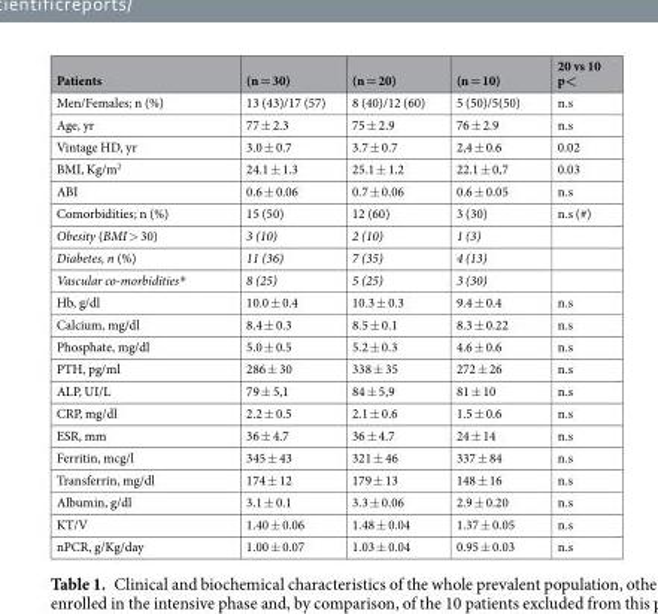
<table><thead><tr><td>Patients</td><td>(n = 30)</td><td>(n = 20)</td><td>(n = 10)</td><td>20 vs 10 p&lt;</td></tr></thead><tbody><tr><td>Men/Females; n (%)</td><td>13 (43)/17 (57)</td><td>8 (40)/12 (60)</td><td>5 (50)/5(50)</td><td>n.s</td></tr><tr><td>Age, yr</td><td>77 ± 2.3</td><td>75 ± 2.9</td><td>76 ± 2.9</td><td>n.s</td></tr><tr><td>Vintage HD, yr</td><td>3.0 ± 0.7</td><td>3.7 ± 0.7</td><td>2,4 ± 0.6</td><td>0.02</td></tr><tr><td>BMI, Kg/m<sup>2</sup></td><td>24.1 ± 1.3</td><td>25.1 ± 1.2</td><td>22.1 ± 0,7</td><td>0.03</td></tr><tr><td>ABI</td><td>0.6 ± 0.06</td><td>0.7 ± 0.06</td><td>0.6 ± 0.05</td><td>n.s</td></tr><tr><td>Comorbidities; n (%)</td><td>15 (50)</td><td>12 (60)</td><td>3 (30)</td><td>n.s (#)</td></tr><tr><td>Obesity (BMI &gt; 30)</td><td>3 (10)</td><td>2 (10)</td><td>1 (3)</td><td></td></tr><tr><td>Diabetes, n (%)</td><td>11 (36)</td><td>7 (35)</td><td>4 (13)</td><td></td></tr><tr><td>Vascular co-morbidities*</td><td>8 (25)</td><td>5 (25)</td><td>3 (30)</td><td></td></tr><tr><td>Hb, g/dl</td><td>10.0 ± 0.4</td><td>10.3 ± 0.3</td><td>9.4 ± 0.4</td><td>n.s</td></tr><tr><td>Calcium, mg/dl</td><td>8.4 ± 0.3</td><td>8.5 ± 0.1</td><td>8.3 ± 0.22</td><td>n.s</td></tr><tr><td>Phosphate, mg/dl</td><td>5.0 ± 0.5</td><td>5.2 ± 0.3</td><td>4.6 ± 0.6</td><td>n.s</td></tr><tr><td>PTH, pg/ml</td><td>286 ± 30</td><td>338 ± 35</td><td>272 ± 26</td><td>n.s</td></tr><tr><td>ALP, UI/L</td><td>79 ± 5,1</td><td>84 ± 5,9</td><td>81 ± 10</td><td>n.s</td></tr><tr><td>CRP, mg/dl</td><td>2.2 ± 0.5</td><td>2.1 ± 0.6</td><td>1.5 ± 0.6</td><td>n.s</td></tr><tr><td>ESR, mm</td><td>36 ± 4.7</td><td>36 ± 4.7</td><td>24 ± 14</td><td>n.s</td></tr><tr><td>Ferritin, mcg/l</td><td>345 ± 43</td><td>321 ± 46</td><td>337 ± 84</td><td>n.s</td></tr><tr><td>Transferrin, mg/dl</td><td>174 ± 12</td><td>179 ± 13</td><td>148 ± 16</td><td>n.s</td></tr><tr><td>Albumin, g/dl</td><td>3.1 ± 0.1</td><td>3.3 ± 0.06</td><td>2.9 ± 0.20</td><td>n.s</td></tr><tr><td>KT/V</td><td>1.40 ± 0.06</td><td>1.48 ± 0.04</td><td>1.37 ± 0.05</td><td>n.s</td></tr><tr><td>nPCR, g/Kg/day</td><td>1.00 ± 0.07</td><td>1.03 ± 0.04</td><td>0.95 ± 0.03</td><td>n.s</td></tr></tbody></table>